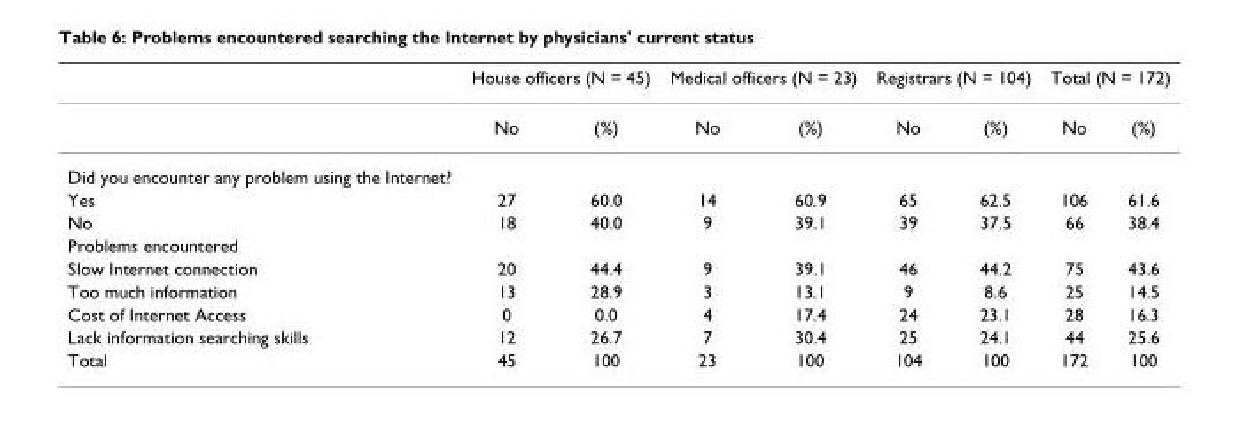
<table><thead><tr><td rowspan="2"></td><td colspan="2">House officers (N = 45)</td><td colspan="2">Medical officers (N = 23)</td><td colspan="2">Registrars (N = 104)</td><td colspan="2">Total (N = 172)</td></tr><tr><td>No</td><td>(%)</td><td>No</td><td>(%)</td><td>No</td><td>(%)</td><td>No</td><td>(%)</td></tr></thead><tbody><tr><td colspan="9">Did you encounter any problem using the Internet?</td></tr><tr><td>Yes</td><td>27</td><td>60.0</td><td>14</td><td>60.9</td><td>65</td><td>62.5</td><td>106</td><td>61.6</td></tr><tr><td>No</td><td>18</td><td>40.0</td><td>9</td><td>39.1</td><td>39</td><td>37.5</td><td>66</td><td>38.4</td></tr><tr><td colspan="9">Problems encountered</td></tr><tr><td>Slow Internet connection</td><td>20</td><td>44.4</td><td>9</td><td>39.1</td><td>46</td><td>44.2</td><td>75</td><td>43.6</td></tr><tr><td>Too much information</td><td>13</td><td>28.9</td><td>3</td><td>13.1</td><td>9</td><td>8.6</td><td>25</td><td>14.5</td></tr><tr><td>Cost of Internet Access</td><td>0</td><td>0.0</td><td>4</td><td>17.4</td><td>24</td><td>23.1</td><td>28</td><td>16.3</td></tr><tr><td>Lack information searching skills</td><td>12</td><td>26.7</td><td>7</td><td>30.4</td><td>25</td><td>24.1</td><td>44</td><td>25.6</td></tr><tr><td>Total</td><td>45</td><td>100</td><td>23</td><td>100</td><td>104</td><td>100</td><td>172</td><td>100</td></tr></tbody></table>